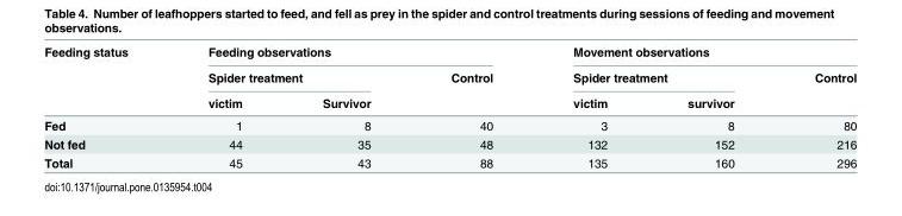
<table><thead><tr><td rowspan="3">Feeding status</td><td colspan="3">Feeding observations</td><td colspan="3">Movement observations</td></tr><tr><td colspan="2">Spider treatment</td><td rowspan="2">Control</td><td colspan="2">Spider treatment</td><td rowspan="2">Control</td></tr><tr><td>victim</td><td>Survivor</td><td>victim</td><td>survivor</td></tr></thead><tbody><tr><td>Fed</td><td>1</td><td>8</td><td>40</td><td>3</td><td>8</td><td>80</td></tr><tr><td>Not fed</td><td>44</td><td>35</td><td>48</td><td>132</td><td>152</td><td>216</td></tr><tr><td>Total</td><td>45</td><td>43</td><td>88</td><td>135</td><td>160</td><td>296</td></tr></tbody></table>